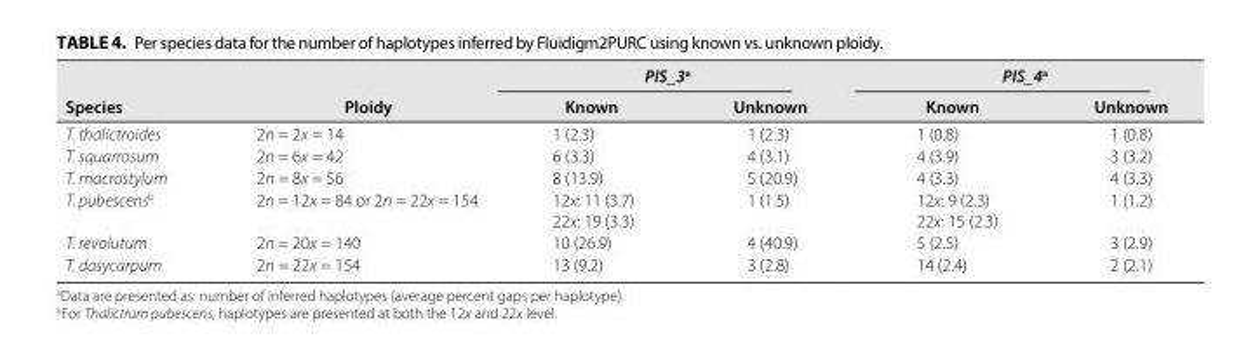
<table><thead><tr><td rowspan="2">Species</td><td rowspan="2">Ploidy</td><td colspan="2">PIS_3a</td><td colspan="2">PIS_4a</td></tr><tr><td>Known</td><td>Unknown</td><td>Known</td><td>Unknown</td></tr></thead><tbody><tr><td>T. thalictroides</td><td>2n = 2x = 14</td><td>1 (2.3)</td><td>1 (2.3)</td><td>1 (0.8)</td><td>1 (0.8)</td></tr><tr><td>T. squarrosum</td><td>2n = 6x = 42</td><td>6 (3.3)</td><td>4 (3.1)</td><td>4 (3.9)</td><td>3 (3.2)</td></tr><tr><td>T. macrostylum</td><td>2n = 8x = 56</td><td>8 (13.9)</td><td>5 (20.9)</td><td>4 (3.3)</td><td>4 (3.3)</td></tr><tr><td>T. pubescensb</td><td>2n = 12x = 84 or 2n = 22x = 154</td><td>12x: 11 (3.7) 22x: 19 (3.3)</td><td>1 (1.5)</td><td>12x: 9 (2.3) 22x: 15 (2.3)</td><td>1 (1.2)</td></tr><tr><td>T. revolutum</td><td>2n = 20x = 140</td><td>10 (26.9)</td><td>4 (40.9)</td><td>5 (2.5)</td><td>3 (2.9)</td></tr><tr><td>T. dasycarpum</td><td>2n = 22x = 154</td><td>13 (9.2)</td><td>3 (2.8)</td><td>14 (2.4)</td><td>2 (2.1)</td></tr></tbody></table>